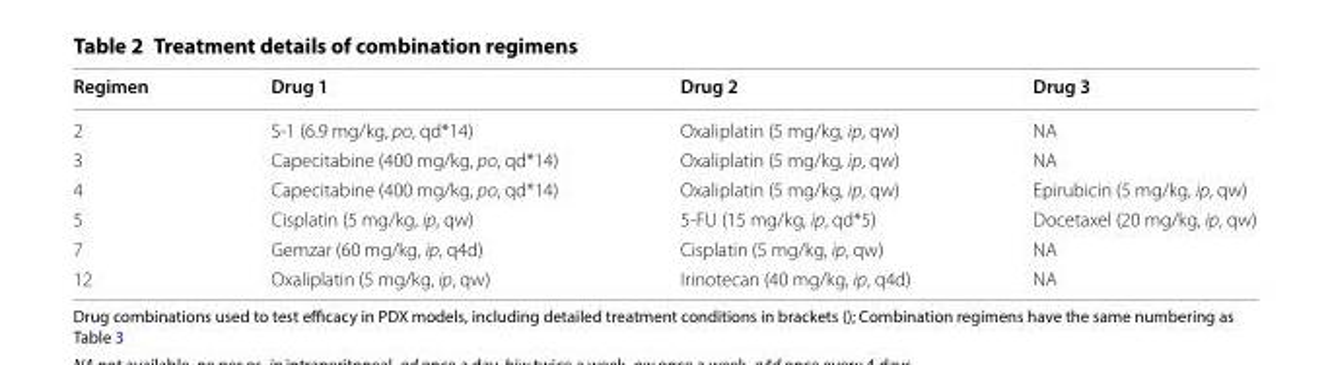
<table><thead><tr><td>Regimen</td><td>Drug 1</td><td>Drug 2</td><td>Drug 3</td></tr></thead><tbody><tr><td>2</td><td>S-1 (6.9 mg/kg, po, qd*14)</td><td>Oxaliplatin (5 mg/kg, ip, qw)</td><td>NA</td></tr><tr><td>3</td><td>Capecitabine (400 mg/kg, po, qd*14)</td><td>Oxaliplatin (5 mg/kg, ip, qw)</td><td>NA</td></tr><tr><td>4</td><td>Capecitabine (400 mg/kg, po, qd*14)</td><td>Oxaliplatin (5 mg/kg, ip, qw)</td><td>Epirubicin (5 mg/kg, ip, qw)</td></tr><tr><td>5</td><td>Cisplatin (5 mg/kg, ip, qw)</td><td>5-FU (15 mg/kg, ip, qd*5)</td><td>Docetaxel (20 mg/kg, ip, qw)</td></tr><tr><td>7</td><td>Gemzar (60 mg/kg, ip, q4d)</td><td>Cisplatin (5 mg/kg, ip, qw)</td><td>NA</td></tr><tr><td>12</td><td>Oxaliplatin (5 mg/kg, ip, qw)</td><td>Irinotecan (40 mg/kg, ip, q4d)</td><td>NA</td></tr></tbody></table>